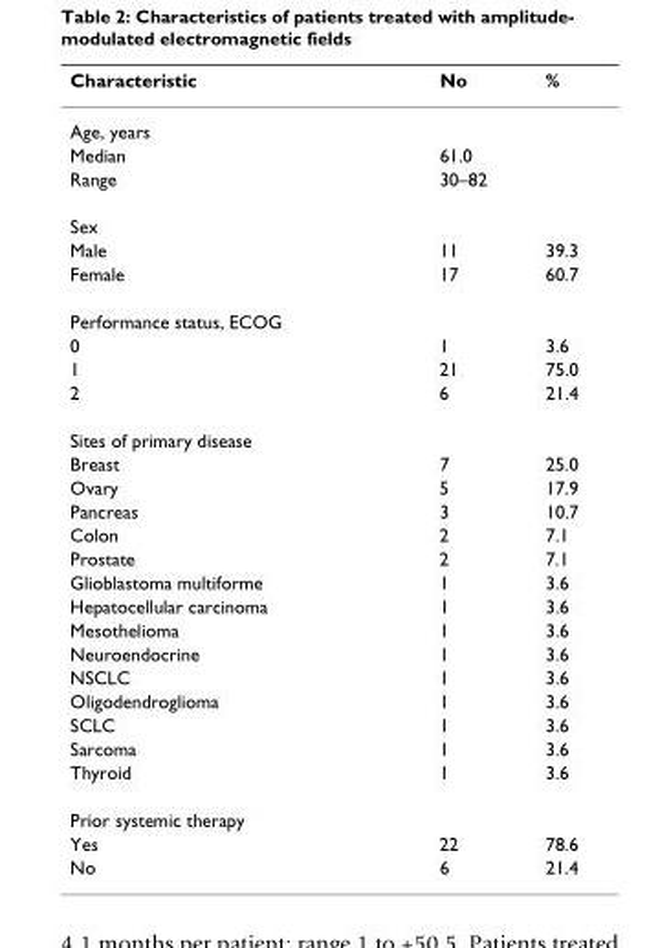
<table><thead><tr><td>Characteristic</td><td>No</td><td>%</td></tr></thead><tbody><tr><td colspan="3">Age, years</td></tr><tr><td>Median</td><td>61.0</td><td></td></tr><tr><td>Range</td><td>30–82</td><td></td></tr><tr><td colspan="3">Sex</td></tr><tr><td>Male</td><td>11</td><td>39.3</td></tr><tr><td>Female</td><td>17</td><td>60.7</td></tr><tr><td colspan="3">Performance status, ECOG</td></tr><tr><td>0</td><td>1</td><td>3.6</td></tr><tr><td>1</td><td>21</td><td>75.0</td></tr><tr><td>2</td><td>6</td><td>21.4</td></tr><tr><td colspan="3">Sites of primary disease</td></tr><tr><td>Breast</td><td>7</td><td>25.0</td></tr><tr><td>Ovary</td><td>5</td><td>17.9</td></tr><tr><td>Pancreas</td><td>3</td><td>10.7</td></tr><tr><td>Colon</td><td>2</td><td>7.1</td></tr><tr><td>Prostate</td><td>2</td><td>7.1</td></tr><tr><td>Glioblastoma multiforme</td><td>1</td><td>3.6</td></tr><tr><td>Hepatocellular carcinoma</td><td>1</td><td>3.6</td></tr><tr><td>Mesothelioma</td><td>1</td><td>3.6</td></tr><tr><td>Neuroendocrine</td><td>1</td><td>3.6</td></tr><tr><td>NSCLC</td><td>1</td><td>3.6</td></tr><tr><td>Oligodendroglioma</td><td>1</td><td>3.6</td></tr><tr><td>SCLC</td><td>1</td><td>3.6</td></tr><tr><td>Sarcoma</td><td>1</td><td>3.6</td></tr><tr><td>Thyroid</td><td>1</td><td>3.6</td></tr><tr><td colspan="3">Prior systemic therapy</td></tr><tr><td>Yes</td><td>22</td><td>78.6</td></tr><tr><td>No</td><td>6</td><td>21.4</td></tr></tbody></table>